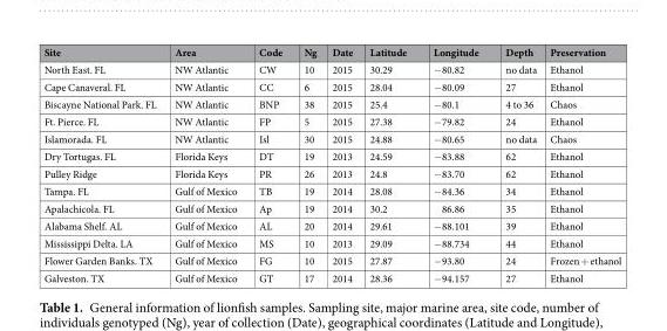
<table><thead><tr><td>Site</td><td>Area</td><td>Code</td><td>Ng</td><td>Date</td><td>Latitude</td><td>Longitude</td><td>Depth</td><td>Preservation</td></tr></thead><tbody><tr><td>North East. FL</td><td>NW Atlantic</td><td>CW</td><td>10</td><td>2015</td><td>30.29</td><td>−80.82</td><td>no data</td><td>Ethanol</td></tr><tr><td>Cape Canaveral. FL</td><td>NW Atlantic</td><td>CC</td><td>6</td><td>2015</td><td>28.04</td><td>−80.09</td><td>27</td><td>Ethanol</td></tr><tr><td>Biscayne National Park. FL</td><td>NW Atlantic</td><td>BNP</td><td>38</td><td>2015</td><td>25.4</td><td>−80.1</td><td>4 to 36</td><td>Chaos</td></tr><tr><td>Ft. Pierce. FL</td><td>NW Atlantic</td><td>FP</td><td>5</td><td>2015</td><td>27.38</td><td>−79.82</td><td>24</td><td>Ethanol</td></tr><tr><td>Islamorada. FL</td><td>NW Atlantic</td><td>Isl</td><td>30</td><td>2015</td><td>24.88</td><td>−80.65</td><td>no data</td><td>Chaos</td></tr><tr><td>Dry Tortugas. FL</td><td>Florida Keys</td><td>DT</td><td>19</td><td>2013</td><td>24.59</td><td>−83.88</td><td>62</td><td>Ethanol</td></tr><tr><td>Pulley Ridge</td><td>Florida Keys</td><td>PR</td><td>26</td><td>2013</td><td>24.8</td><td>−83.70</td><td>62</td><td>Ethanol</td></tr><tr><td>Tampa. FL</td><td>Gulf of Mexico</td><td>TB</td><td>19</td><td>2014</td><td>28.08</td><td>−84.36</td><td>34</td><td>Ethanol</td></tr><tr><td>Apalachicola. FL</td><td>Gulf of Mexico</td><td>Ap</td><td>19</td><td>2014</td><td>30.2</td><td>86.86</td><td>35</td><td>Ethanol</td></tr><tr><td>Alabama Shelf. AL</td><td>Gulf of Mexico</td><td>AL</td><td>20</td><td>2014</td><td>29.61</td><td>−88.101</td><td>39</td><td>Ethanol</td></tr><tr><td>Mississippi Delta. LA</td><td>Gulf of Mexico</td><td>MS</td><td>10</td><td>2013</td><td>29.09</td><td>−88.734</td><td>44</td><td>Ethanol</td></tr><tr><td>Flower Garden Banks. TX</td><td>Gulf of Mexico</td><td>FG</td><td>10</td><td>2015</td><td>27.87</td><td>−93.80</td><td>24</td><td>Frozen + ethanol</td></tr><tr><td>Galveston. TX</td><td>Gulf of Mexico</td><td>GT</td><td>17</td><td>2014</td><td>28.36</td><td>−94.157</td><td>27</td><td>Ethanol</td></tr></tbody></table>